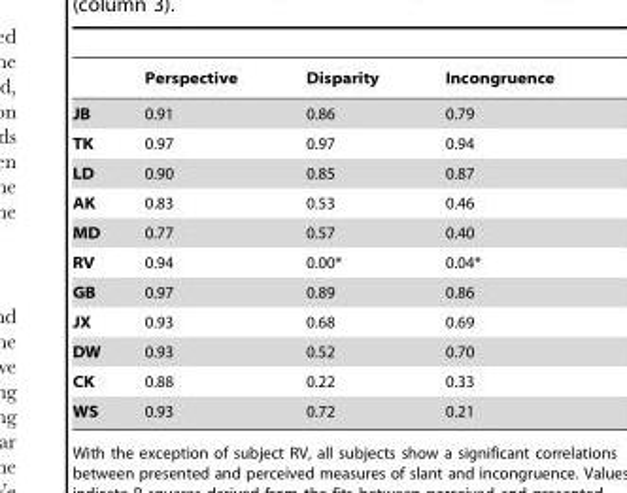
<table><thead><tr><td></td><td>Perspective</td><td>Disparity</td><td>Incongruence</td></tr></thead><tbody><tr><td>JB</td><td>0.91</td><td>0.86</td><td>0.79</td></tr><tr><td>TK</td><td>0.97</td><td>0.97</td><td>0.94</td></tr><tr><td>LD</td><td>0.90</td><td>0.85</td><td>0.87</td></tr><tr><td>AK</td><td>0.83</td><td>0.53</td><td>0.46</td></tr><tr><td>MD</td><td>0.77</td><td>0.57</td><td>0.40</td></tr><tr><td>RV</td><td>0.94</td><td>0.00*</td><td>0.04*</td></tr><tr><td>GB</td><td>0.97</td><td>0.89</td><td>0.86</td></tr><tr><td>JX</td><td>0.93</td><td>0.68</td><td>0.69</td></tr><tr><td>DW</td><td>0.93</td><td>0.52</td><td>0.70</td></tr><tr><td>CK</td><td>0.88</td><td>0.22</td><td>0.33</td></tr><tr><td>WS</td><td>0.93</td><td>0.72</td><td>0.21</td></tr></tbody></table>